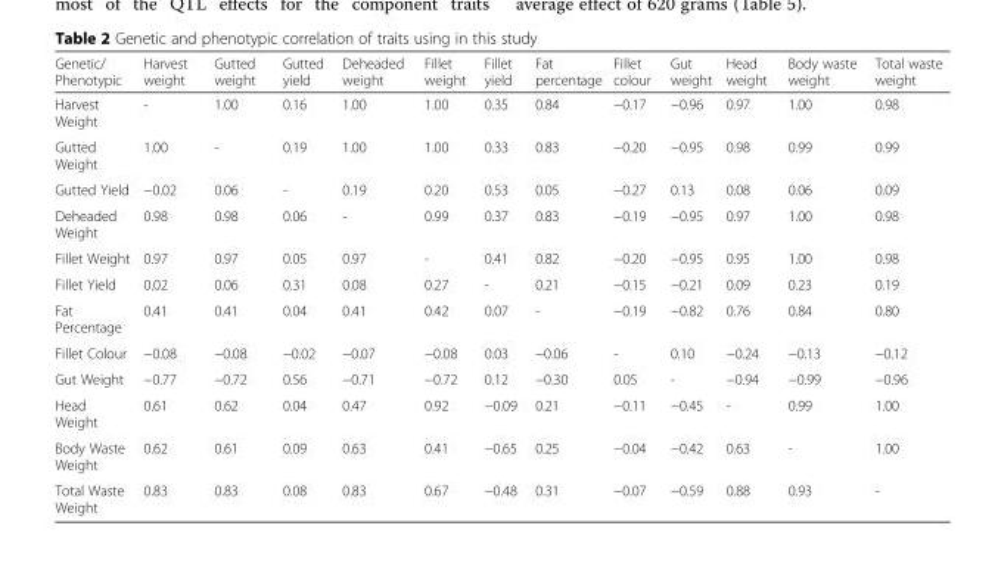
<table><thead><tr><td>Genetic/ Phenotypic</td><td>Harvest weight</td><td>Gutted weight</td><td>Gutted yield</td><td>Deheaded weight</td><td>Fillet weight</td><td>Fillet yield</td><td>Fat percentage</td><td>Fillet colour</td><td>Gut weight</td><td>Head weight</td><td>Body waste weight</td><td>Total waste weight</td></tr></thead><tbody><tr><td>Harvest Weight</td><td>-</td><td>1.00</td><td>0.16</td><td>1.00</td><td>1.00</td><td>0.35</td><td>0.84</td><td>−0.17</td><td>−0.96</td><td>0.97</td><td>1.00</td><td>0.98</td></tr><tr><td>Gutted Weight</td><td>1.00</td><td>-</td><td>0.19</td><td>1.00</td><td>1.00</td><td>0.33</td><td>0.83</td><td>−0.20</td><td>−0.95</td><td>0.98</td><td>0.99</td><td>0.99</td></tr><tr><td>Gutted Yield</td><td>−0.02</td><td>0.06</td><td>-</td><td>0.19</td><td>0.20</td><td>0.53</td><td>0.05</td><td>−0.27</td><td>0.13</td><td>0.08</td><td>0.06</td><td>0.09</td></tr><tr><td>Deheaded Weight</td><td>0.98</td><td>0.98</td><td>0.06</td><td>-</td><td>0.99</td><td>0.37</td><td>0.83</td><td>−0.19</td><td>−0.95</td><td>0.97</td><td>1.00</td><td>0.98</td></tr><tr><td>Fillet Weight</td><td>0.97</td><td>0.97</td><td>0.05</td><td>0.97</td><td>-</td><td>0.41</td><td>0.82</td><td>−0.20</td><td>−0.95</td><td>0.95</td><td>1.00</td><td>0.98</td></tr><tr><td>Fillet Yield</td><td>0.02</td><td>0.06</td><td>0.31</td><td>0.08</td><td>0.27</td><td>-</td><td>0.21</td><td>−0.15</td><td>−0.21</td><td>0.09</td><td>0.23</td><td>0.19</td></tr><tr><td>Fat Percentage</td><td>0.41</td><td>0.41</td><td>0.04</td><td>0.41</td><td>0.42</td><td>0.07</td><td>-</td><td>−0.19</td><td>−0.82</td><td>0.76</td><td>0.84</td><td>0.80</td></tr><tr><td>Fillet Colour</td><td>−0.08</td><td>−0.08</td><td>−0.02</td><td>−0.07</td><td>−0.08</td><td>0.03</td><td>−0.06</td><td>-</td><td>0.10</td><td>−0.24</td><td>−0.13</td><td>−0.12</td></tr><tr><td>Gut Weight</td><td>−0.77</td><td>−0.72</td><td>0.56</td><td>−0.71</td><td>−0.72</td><td>0.12</td><td>−0.30</td><td>0.05</td><td>-</td><td>−0.94</td><td>−0.99</td><td>−0.96</td></tr><tr><td>Head Weight</td><td>0.61</td><td>0.62</td><td>0.04</td><td>0.47</td><td>0.92</td><td>−0.09</td><td>0.21</td><td>−0.11</td><td>−0.45</td><td>-</td><td>0.99</td><td>1.00</td></tr><tr><td>Body Waste Weight</td><td>0.62</td><td>0.61</td><td>0.09</td><td>0.63</td><td>0.41</td><td>−0.65</td><td>0.25</td><td>−0.04</td><td>−0.42</td><td>0.63</td><td>-</td><td>1.00</td></tr><tr><td>Total Waste Weight</td><td>0.83</td><td>0.83</td><td>0.08</td><td>0.83</td><td>0.67</td><td>−0.48</td><td>0.31</td><td>−0.07</td><td>−0.59</td><td>0.88</td><td>0.93</td><td>-</td></tr></tbody></table>